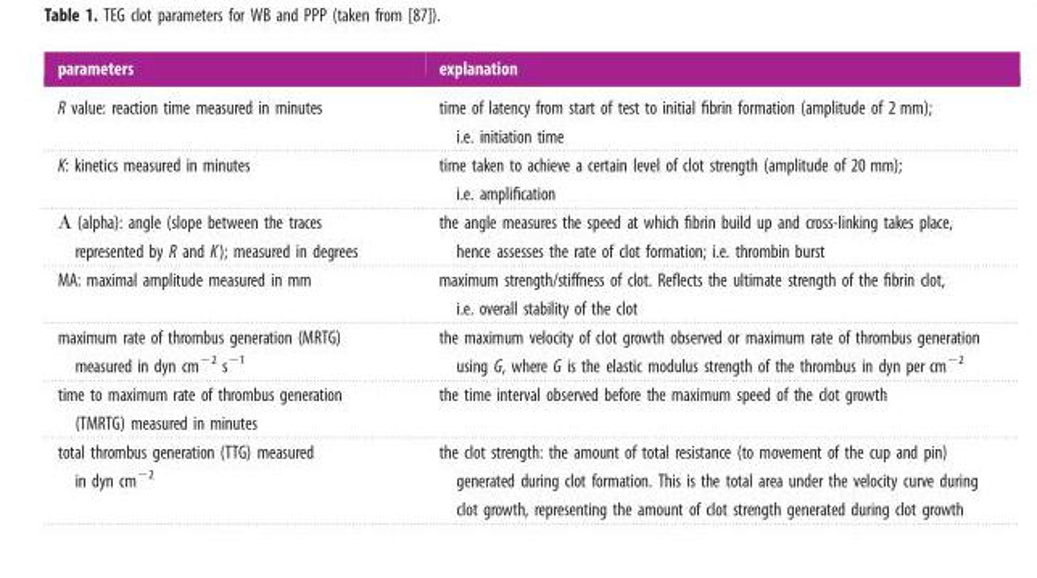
<table><thead><tr><td>parameters</td><td>explanation</td></tr></thead><tbody><tr><td>R value: reaction time measured in minutes</td><td>time of latency from start of test to initial fibrin formation (amplitude of 2 mm); i.e. initiation time</td></tr><tr><td>K: kinetics measured in minutes</td><td>time taken to achieve a certain level of clot strength (amplitude of 20 mm); i.e. amplification</td></tr><tr><td>A (alpha): angle (slope between the traces represented by R and K); measured in degrees</td><td>the angle measures the speed at which fibrin build up and cross-linking takes place, hence assesses the rate of clot formation; i.e. thrombin burst</td></tr><tr><td>MA: maximal amplitude measured in mm</td><td>maximum strength/stiffness of clot. Reflects the ultimate strength of the fibrin clot, i.e. overall stability of the clot</td></tr><tr><td>maximum rate of thrombus generation (MRTG) measured in dyn cm<sup>−2</sup> s<sup>−1</sup></td><td>the maximum velocity of clot growth observed or maximum rate of thrombus generation using G, where G is the elastic modulus strength of the thrombus in dyn per cm<sup>−2</sup></td></tr><tr><td>time to maximum rate of thrombus generation (TMRTG) measured in minutes</td><td>the time interval observed before the maximum speed of the clot growth</td></tr><tr><td>total thrombus generation (TTG) measured in dyn cm<sup>−2</sup></td><td>the clot strength: the amount of total resistance (to movement of the cup and pin) generated during clot formation. This is the total area under the velocity curve during clot growth, representing the amount of clot strength generated during clot growth</td></tr></tbody></table>